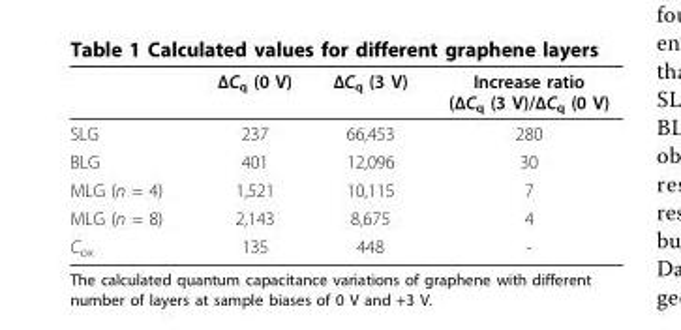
<table><thead><tr><td></td><td>ΔC<sub>q</sub> (0 V)</td><td>ΔC<sub>q</sub> (3 V)</td><td>Increase ratio (ΔC<sub>q</sub> (3 V)/ΔC<sub>q</sub> (0 V)</td></tr></thead><tbody><tr><td>SLG</td><td>237</td><td>66,453</td><td>280</td></tr><tr><td>BLG</td><td>401</td><td>12,096</td><td>30</td></tr><tr><td>MLG (n = 4)</td><td>1,521</td><td>10,115</td><td>7</td></tr><tr><td>MLG (n = 8)</td><td>2,143</td><td>8,675</td><td>4</td></tr><tr><td>C<sub>ox</sub></td><td>135</td><td>448</td><td>-</td></tr></tbody></table>